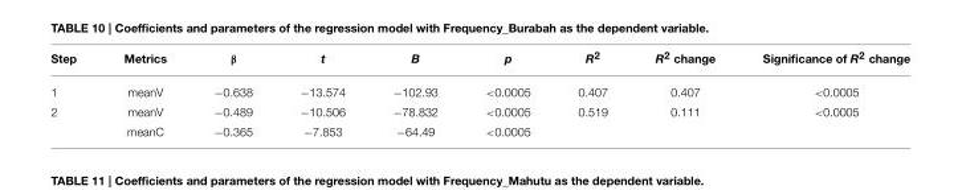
<table><thead><tr><td>Step</td><td>Metrics</td><td>β</td><td>t</td><td>B</td><td>p</td><td>R<sup>2</sup></td><td>R<sup>2</sup> change</td><td>Significance of R<sup>2</sup> change</td></tr></thead><tbody><tr><td>1</td><td>meanV</td><td>−0.638</td><td>−13.574</td><td>−102.93</td><td>&lt;0.0005</td><td>0.407</td><td>0.407</td><td>&lt;0.0005</td></tr><tr><td rowspan="2">2</td><td>meanV</td><td>−0.489</td><td>−10.506</td><td>−78.832</td><td>&lt;0.0005</td><td>0.519</td><td>0.111</td><td>&lt;0.0005</td></tr><tr><td>meanC</td><td>−0.365</td><td>−7.853</td><td>−64.49</td><td>&lt;0.0005</td><td></td><td></td><td></td></tr></tbody></table>